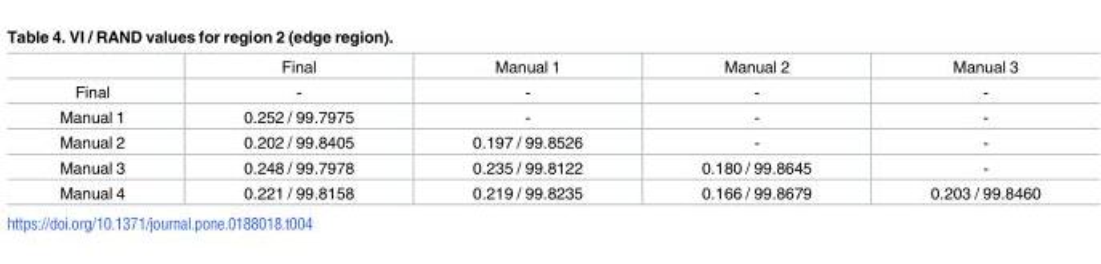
<table><thead><tr><td></td><td>Final</td><td>Manual 1</td><td>Manual 2</td><td>Manual 3</td></tr></thead><tbody><tr><td>Final</td><td>-</td><td>-</td><td>-</td><td>-</td></tr><tr><td>Manual 1</td><td>0.252 / 99.7975</td><td>-</td><td>-</td><td>-</td></tr><tr><td>Manual 2</td><td>0.202 / 99.8405</td><td>0.197 / 99.8526</td><td>-</td><td>-</td></tr><tr><td>Manual 3</td><td>0.248 / 99.7978</td><td>0.235 / 99.8122</td><td>0.180 / 99.8645</td><td>-</td></tr><tr><td>Manual 4</td><td>0.221 / 99.8158</td><td>0.219 / 99.8235</td><td>0.166 / 99.8679</td><td>0.203 / 99.8460</td></tr></tbody></table>